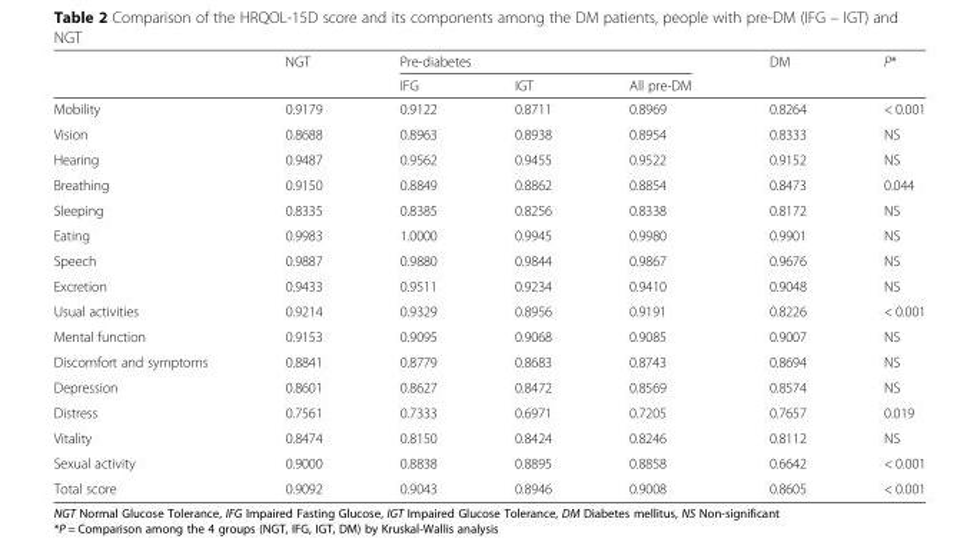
<table><thead><tr><td rowspan="2"></td><td rowspan="2">NGT</td><td colspan="3">Pre-diabetes</td><td rowspan="2">DM</td><td rowspan="2">P*</td></tr><tr><td>IFG</td><td>IGT</td><td>All pre-DM</td></tr></thead><tbody><tr><td>Mobility</td><td>0.9179</td><td>0.9122</td><td>0.8711</td><td>0.8969</td><td>0.8264</td><td>&lt; 0.001</td></tr><tr><td>Vision</td><td>0.8688</td><td>0.8963</td><td>0.8938</td><td>0.8954</td><td>0.8333</td><td>NS</td></tr><tr><td>Hearing</td><td>0.9487</td><td>0.9562</td><td>0.9455</td><td>0.9522</td><td>0.9152</td><td>NS</td></tr><tr><td>Breathing</td><td>0.9150</td><td>0.8849</td><td>0.8862</td><td>0.8854</td><td>0.8473</td><td>0.044</td></tr><tr><td>Sleeping</td><td>0.8335</td><td>0.8385</td><td>0.8256</td><td>0.8338</td><td>0.8172</td><td>NS</td></tr><tr><td>Eating</td><td>0.9983</td><td>1.0000</td><td>0.9945</td><td>0.9980</td><td>0.9901</td><td>NS</td></tr><tr><td>Speech</td><td>0.9887</td><td>0.9880</td><td>0.9844</td><td>0.9867</td><td>0.9676</td><td>NS</td></tr><tr><td>Excretion</td><td>0.9433</td><td>0.9511</td><td>0.9234</td><td>0.9410</td><td>0.9048</td><td>NS</td></tr><tr><td>Usual activities</td><td>0.9214</td><td>0.9329</td><td>0.8956</td><td>0.9191</td><td>0.8226</td><td>&lt; 0.001</td></tr><tr><td>Mental function</td><td>0.9153</td><td>0.9095</td><td>0.9068</td><td>0.9085</td><td>0.9007</td><td>NS</td></tr><tr><td>Discomfort and symptoms</td><td>0.8841</td><td>0.8779</td><td>0.8683</td><td>0.8743</td><td>0.8694</td><td>NS</td></tr><tr><td>Depression</td><td>0.8601</td><td>0.8627</td><td>0.8472</td><td>0.8569</td><td>0.8574</td><td>NS</td></tr><tr><td>Distress</td><td>0.7561</td><td>0.7333</td><td>0.6971</td><td>0.7205</td><td>0.7657</td><td>0.019</td></tr><tr><td>Vitality</td><td>0.8474</td><td>0.8150</td><td>0.8424</td><td>0.8246</td><td>0.8112</td><td>NS</td></tr><tr><td>Sexual activity</td><td>0.9000</td><td>0.8838</td><td>0.8895</td><td>0.8858</td><td>0.6642</td><td>&lt; 0.001</td></tr><tr><td>Total score</td><td>0.9092</td><td>0.9043</td><td>0.8946</td><td>0.9008</td><td>0.8605</td><td>&lt; 0.001</td></tr></tbody></table>